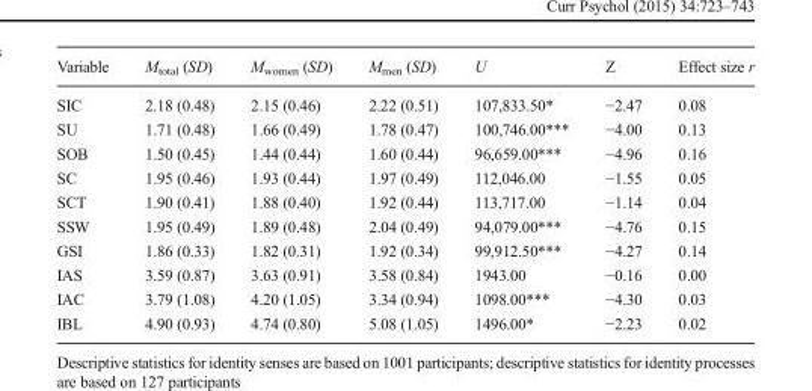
<table><thead><tr><td>Variable</td><td>M<sub>total</sub> (SD)</td><td>M<sub>women</sub> (SD)</td><td>M<sub>men</sub> (SD)</td><td>U</td><td>Z</td><td>Effect size r</td></tr></thead><tbody><tr><td>SIC</td><td>2.18 (0.48)</td><td>2.15 (0.46)</td><td>2.22 (0.51)</td><td>107,833.50*</td><td>−2.47</td><td>0.08</td></tr><tr><td>SU</td><td>1.71 (0.48)</td><td>1.66 (0.49)</td><td>1.78 (0.47)</td><td>100,746.00***</td><td>−4.00</td><td>0.13</td></tr><tr><td>SOB</td><td>1.50 (0.45)</td><td>1.44 (0.44)</td><td>1.60 (0.44)</td><td>96,659.00***</td><td>−4.96</td><td>0.16</td></tr><tr><td>SC</td><td>1.95 (0.46)</td><td>1.93 (0.44)</td><td>1.97 (0.49)</td><td>112,046.00</td><td>−1.55</td><td>0.05</td></tr><tr><td>SCT</td><td>1.90 (0.41)</td><td>1.88 (0.40)</td><td>1.92 (0.44)</td><td>113,717.00</td><td>−1.14</td><td>0.04</td></tr><tr><td>SSW</td><td>1.95 (0.49)</td><td>1.89 (0.48)</td><td>2.04 (0.49)</td><td>94,079.00***</td><td>−4.76</td><td>0.15</td></tr><tr><td>GSI</td><td>1.86 (0.33)</td><td>1.82 (0.31)</td><td>1.92 (0.34)</td><td>99,912.50***</td><td>−4.27</td><td>0.14</td></tr><tr><td>IAS</td><td>3.59 (0.87)</td><td>3.63 (0.91)</td><td>3.58 (0.84)</td><td>1943.00</td><td>−0.16</td><td>0.00</td></tr><tr><td>IAC</td><td>3.79 (1.08)</td><td>4.20 (1.05)</td><td>3.34 (0.94)</td><td>1098.00***</td><td>−4.30</td><td>0.03</td></tr><tr><td>IBL</td><td>4.90 (0.93)</td><td>4.74 (0.80)</td><td>5.08 (1.05)</td><td>1496.00*</td><td>−2.23</td><td>0.02</td></tr></tbody></table>